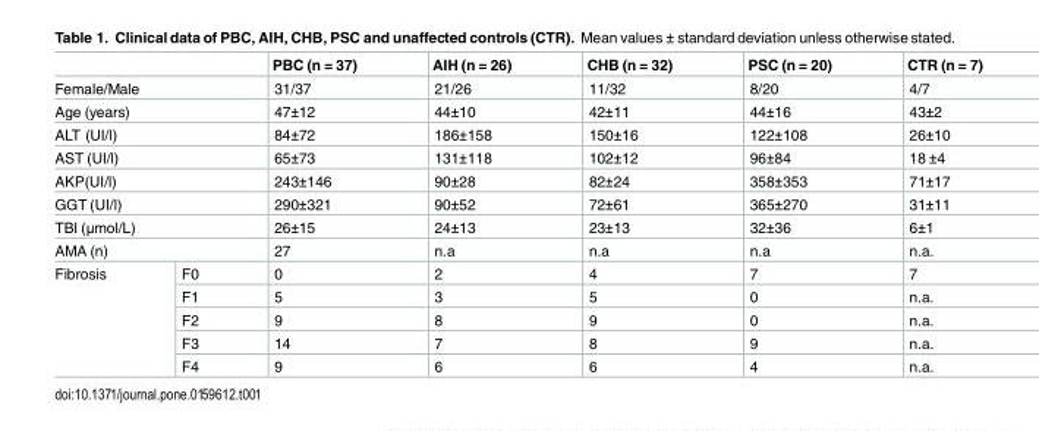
<table><thead><tr><td></td><td></td><td>PBC (n = 37)</td><td>AIH (n = 26)</td><td>CHB (n = 32)</td><td>PSC (n = 20)</td><td>CTR (n = 7)</td></tr></thead><tbody><tr><td colspan="2">Female/Male</td><td>31/37</td><td>21/26</td><td>11/32</td><td>8/20</td><td>4/7</td></tr><tr><td colspan="2">Age (years)</td><td>47±12</td><td>44±10</td><td>42±11</td><td>44±16</td><td>43±2</td></tr><tr><td colspan="2">ALT (UI/l)</td><td>84±72</td><td>186±158</td><td>150±16</td><td>122±108</td><td>26±10</td></tr><tr><td colspan="2">AST (UI/l)</td><td>65±73</td><td>131±118</td><td>102±12</td><td>96±84</td><td>18 ±4</td></tr><tr><td colspan="2">AKP(UI/l)</td><td>243±146</td><td>90±28</td><td>82±24</td><td>358±353</td><td>71±17</td></tr><tr><td colspan="2">GGT (UI/l)</td><td>290±321</td><td>90±52</td><td>72±61</td><td>365±270</td><td>31±11</td></tr><tr><td colspan="2">TBI (μmol/L)</td><td>26±15</td><td>24±13</td><td>23±13</td><td>32±36</td><td>6±1</td></tr><tr><td colspan="2">AMA (n)</td><td>27</td><td>n.a</td><td>n.a</td><td>n.a</td><td>n.a.</td></tr><tr><td rowspan="5">Fibrosis</td><td>F0</td><td>0</td><td>2</td><td>4</td><td>7</td><td>7</td></tr><tr><td>F1</td><td>5</td><td>3</td><td>5</td><td>0</td><td>n.a.</td></tr><tr><td>F2</td><td>9</td><td>8</td><td>9</td><td>0</td><td>n.a.</td></tr><tr><td>F3</td><td>14</td><td>7</td><td>8</td><td>9</td><td>n.a.</td></tr><tr><td>F4</td><td>9</td><td>6</td><td>6</td><td>4</td><td>n.a.</td></tr></tbody></table>